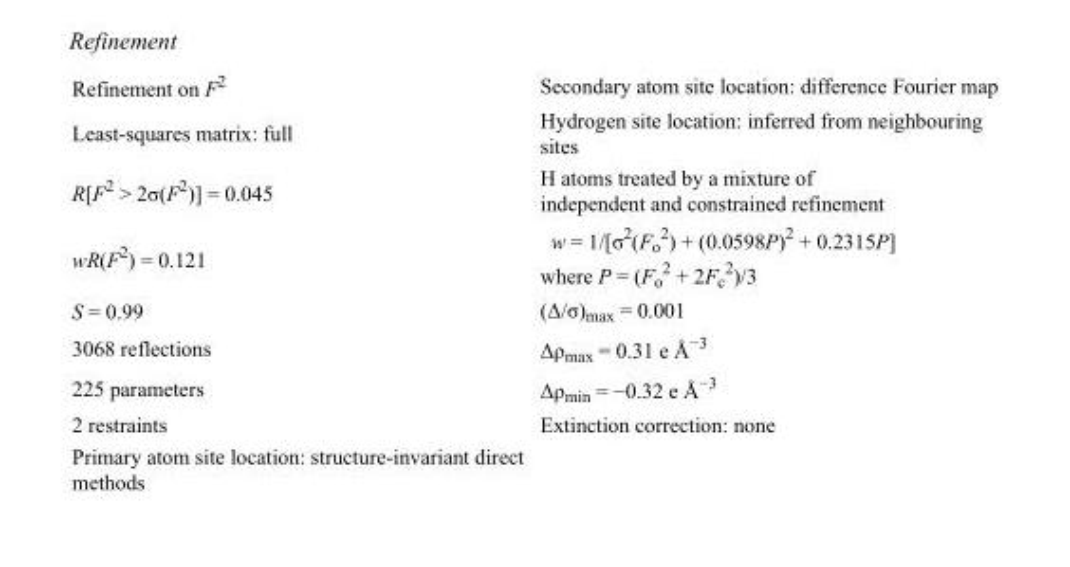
<table><tbody><tr><td>Refinement on F<sup>2</sup></td><td>Secondary atom site location: difference Fourier map</td></tr><tr><td>Least-squares matrix: full</td><td>Hydrogen site location: inferred from neighbouring sites</td></tr><tr><td>R[F<sup>2</sup> &gt; 2σ(F<sup>2</sup>)] = 0.045</td><td>H atoms treated by a mixture of independent and constrained refinement</td></tr><tr><td>wR(F<sup>2</sup>) = 0.121</td><td>w = 1/[σ<sup>2</sup>(F<sub>o</sub> <sup>2</sup>) + (0.0598P)<sup>2</sup> + 0.2315P] where P = (F<sub>o</sub> <sup>2</sup> + 2F<sub>c</sub> <sup>2</sup>)/3</td></tr><tr><td>S = 0.99</td><td>(Δ/σ)<sub>max</sub> = 0.001</td></tr><tr><td>3068 reflections</td><td>Δρ<sub>max</sub> = 0.31 e Å<sup>−3</sup></td></tr><tr><td>225 parameters</td><td>Δρ<sub>min</sub> = −0.32 e Å<sup>−3</sup></td></tr><tr><td>2 restraints</td><td>Extinction correction: none</td></tr><tr><td>Primary atom site location: structure-invariant direct methods</td><td></td></tr></tbody></table>